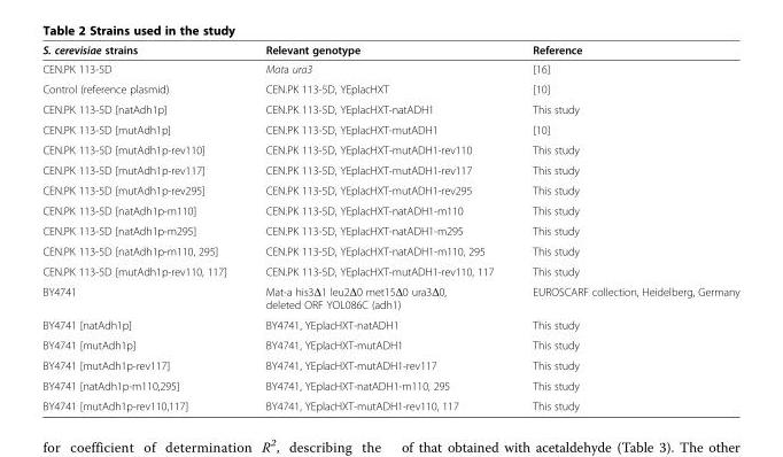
<table><thead><tr><td>S. cerevisiae strains</td><td>Relevant genotype</td><td>Reference</td></tr></thead><tbody><tr><td>CEN.PK 113-5D</td><td>Mata ura3</td><td>[16]</td></tr><tr><td>Control (reference plasmid)</td><td>CEN.PK 113-5D, YEplacHXT</td><td>[10]</td></tr><tr><td>CEN.PK 113-5D [natAdh1p]</td><td>CEN.PK 113-5D, YEplacHXT-natADH1</td><td>This study</td></tr><tr><td>CEN.PK 113-5D [mutAdh1p]</td><td>CEN.PK 113-5D, YEplacHXT-mutADH1</td><td>[10]</td></tr><tr><td>CEN.PK 113-5D [mutAdh1p-rev110]</td><td>CEN.PK 113-5D, YEplacHXT-mutADH1-rev110</td><td>This study</td></tr><tr><td>CEN.PK 113-5D [mutAdh1p-rev117]</td><td>CEN.PK 113-5D, YEplacHXT-mutADH1-rev117</td><td>This study</td></tr><tr><td>CEN.PK 113-5D [mutAdh1p-rev295]</td><td>CEN.PK 113-5D, YEplacHXT-mutADH1-rev295</td><td>This study</td></tr><tr><td>CEN.PK 113-5D [natAdh1p-m110]</td><td>CEN.PK 113-5D, YEplacHXT-natADH1-m110</td><td>This study</td></tr><tr><td>CEN.PK 113-5D [natAdh1p-m295]</td><td>CEN.PK 113-5D, YEplacHXT-natADH1-m295</td><td>This study</td></tr><tr><td>CEN.PK 113-5D [natAdh1p-m110, 295]</td><td>CEN.PK 113-5D, YEplacHXT-natADH1-m110, 295</td><td>This study</td></tr><tr><td>CEN.PK 113-5D [mutAdh1p-rev110, 117]</td><td>CEN.PK 113-5D, YEplacHXT-mutADH1-rev110, 117</td><td>This study</td></tr><tr><td>BY4741</td><td>Mat-a his3Δ1 leu2Δ0 met15Δ0 ura3Δ0, deleted ORF YOL086C (adh1)</td><td>EUROSCARF collection, Heidelberg, Germany</td></tr><tr><td>BY4741 [natAdh1p]</td><td>BY4741, YEplacHXT-natADH1</td><td>This study</td></tr><tr><td>BY4741 [mutAdh1p]</td><td>BY4741, YEplacHXT-mutADH1</td><td>This study</td></tr><tr><td>BY4741 [mutAdh1p-rev117]</td><td>BY4741, YEplacHXT-mutADH1-rev117</td><td>This study</td></tr><tr><td>BY4741 [natAdh1p-m110,295]</td><td>BY4741, YEplacHXT-natADH1-m110, 295</td><td>This study</td></tr><tr><td>BY4741 [mutAdh1p-rev110,117]</td><td>BY4741, YEplacHXT-mutADH1-rev110, 117</td><td>This study</td></tr></tbody></table>